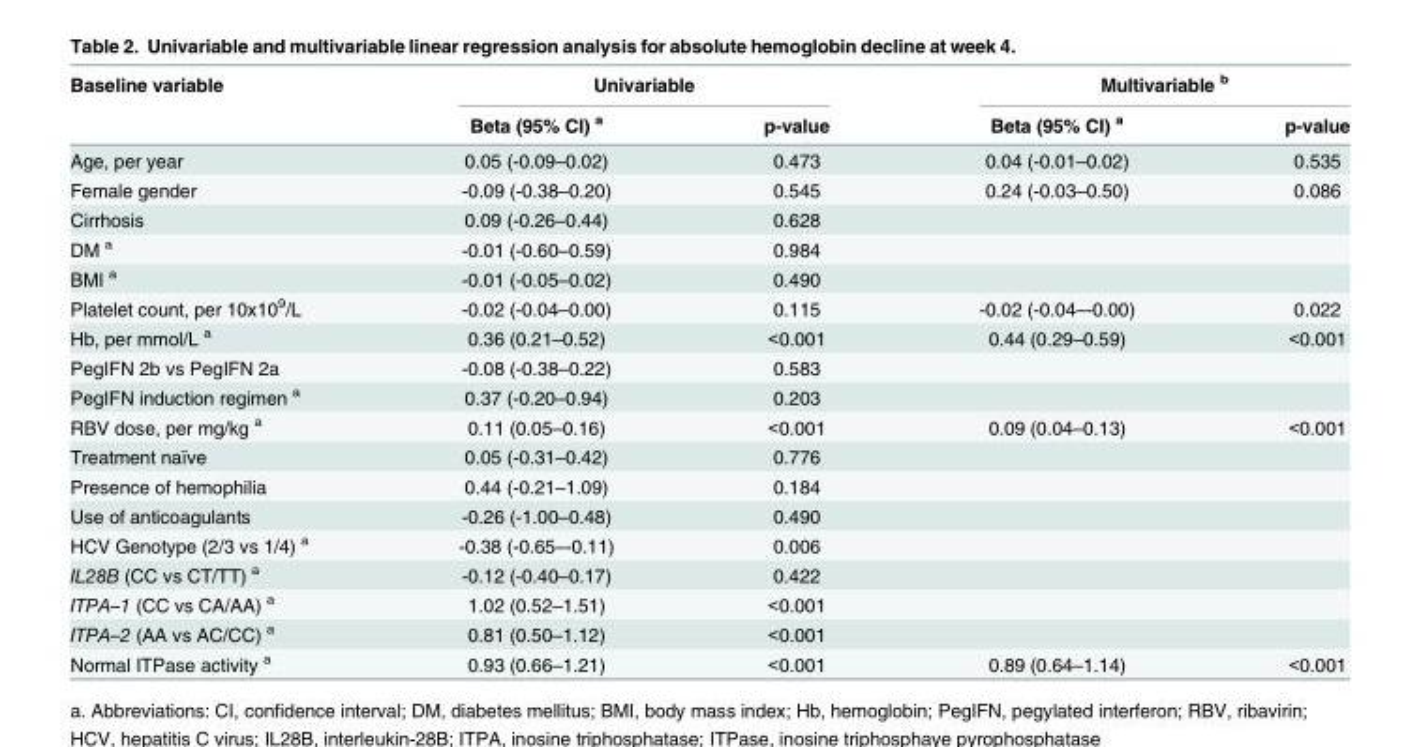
<table><thead><tr><td rowspan="2">Baseline variable</td><td colspan="2">Univariable</td><td colspan="2">Multivariable <sup>b</sup></td></tr><tr><td>Beta (95% CI) <sup>a</sup></td><td>p-value</td><td>Beta (95% CI) <sup>a</sup></td><td>p-value</td></tr></thead><tbody><tr><td>Age, per year</td><td>0.05 (-0.09–0.02)</td><td>0.473</td><td>0.04 (-0.01–0.02)</td><td>0.535</td></tr><tr><td>Female gender</td><td>-0.09 (-0.38–0.20)</td><td>0.545</td><td>0.24 (-0.03–0.50)</td><td>0.086</td></tr><tr><td>Cirrhosis</td><td>0.09 (-0.26–0.44)</td><td>0.628</td><td></td><td></td></tr><tr><td>DM <sup>a</sup></td><td>-0.01 (-0.60–0.59)</td><td>0.984</td><td></td><td></td></tr><tr><td>BMI <sup>a</sup></td><td>-0.01 (-0.05–0.02)</td><td>0.490</td><td></td><td></td></tr><tr><td>Platelet count, per 10x10<sup>9</sup>/L</td><td>-0.02 (-0.04–0.00)</td><td>0.115</td><td>-0.02 (-0.04–-0.00)</td><td>0.022</td></tr><tr><td>Hb, per mmol/L <sup>a</sup></td><td>0.36 (0.21–0.52)</td><td>&lt;0.001</td><td>0.44 (0.29–0.59)</td><td>&lt;0.001</td></tr><tr><td>PegIFN 2b vs PegIFN 2a</td><td>-0.08 (-0.38–0.22)</td><td>0.583</td><td></td><td></td></tr><tr><td>PegIFN induction regimen <sup>a</sup></td><td>0.37 (-0.20–0.94)</td><td>0.203</td><td></td><td></td></tr><tr><td>RBV dose, per mg/kg <sup>a</sup></td><td>0.11 (0.05–0.16)</td><td>&lt;0.001</td><td>0.09 (0.04–0.13)</td><td>&lt;0.001</td></tr><tr><td>Treatment naïve</td><td>0.05 (-0.31–0.42)</td><td>0.776</td><td></td><td></td></tr><tr><td>Presence of hemophilia</td><td>0.44 (-0.21–1.09)</td><td>0.184</td><td></td><td></td></tr><tr><td>Use of anticoagulants</td><td>-0.26 (-1.00–0.48)</td><td>0.490</td><td></td><td></td></tr><tr><td>HCV Genotype (2/3 vs 1/4) <sup>a</sup></td><td>-0.38 (-0.65–-0.11)</td><td>0.006</td><td></td><td></td></tr><tr><td>IL28B (CC vs CT/TT) <sup>a</sup></td><td>-0.12 (-0.40–0.17)</td><td>0.422</td><td></td><td></td></tr><tr><td>ITPA–1 (CC vs CA/AA) <sup>a</sup></td><td>1.02 (0.52–1.51)</td><td>&lt;0.001</td><td></td><td></td></tr><tr><td>ITPA–2 (AA vs AC/CC) <sup>a</sup></td><td>0.81 (0.50–1.12)</td><td>&lt;0.001</td><td></td><td></td></tr><tr><td>Normal ITPase activity <sup>a</sup></td><td>0.93 (0.66–1.21)</td><td>&lt;0.001</td><td>0.89 (0.64–1.14)</td><td>&lt;0.001</td></tr></tbody></table>